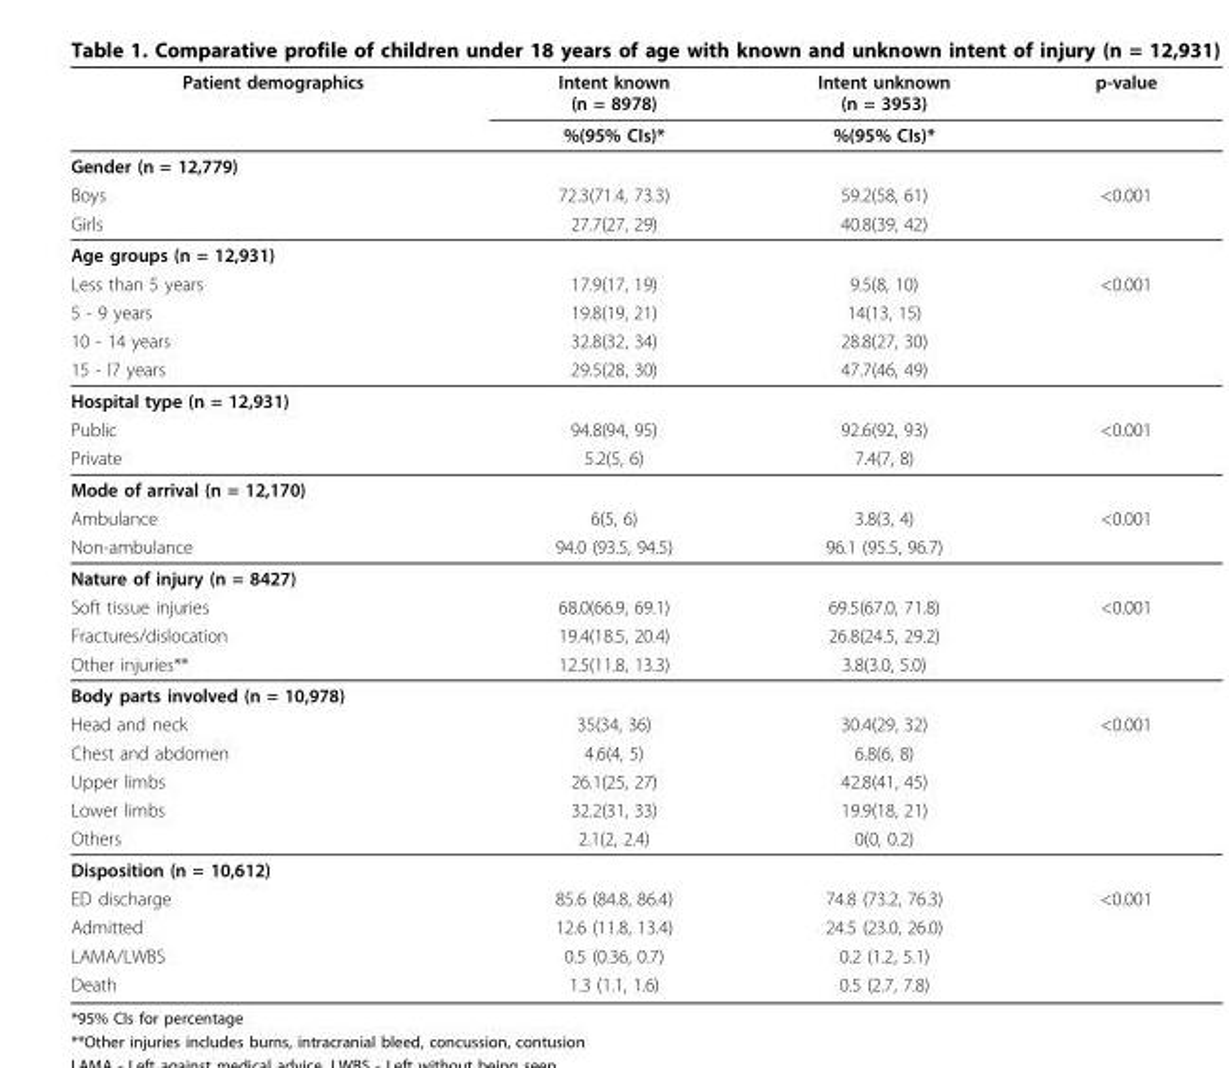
<table><thead><tr><td rowspan="2">Patient demographics</td><td rowspan="2">Intent known (n = 8978) %(95% CIs)*</td><td rowspan="2">Intent unknown (n = 3953) %(95% CIs)*</td><td rowspan="2">p-value</td></tr><tr></tr></thead><tbody><tr><td colspan="4">Gender (n = 12,779)</td></tr><tr><td>Boys</td><td>72.3(71.4, 73.3)</td><td>59.2(58, 61)</td><td>&lt;0.001</td></tr><tr><td>Girls</td><td>27.7(27, 29)</td><td>40.8(39, 42)</td><td></td></tr><tr><td colspan="4">Age groups (n = 12,931)</td></tr><tr><td>Less than 5 years</td><td>17.9(17, 19)</td><td>9.5(8, 10)</td><td>&lt;0.001</td></tr><tr><td>5 - 9 years</td><td>19.8(19, 21)</td><td>14(13, 15)</td><td></td></tr><tr><td>10 - 14 years</td><td>32.8(32, 34)</td><td>28.8(27, 30)</td><td></td></tr><tr><td>15 - l7 years</td><td>29.5(28, 30)</td><td>47.7(46, 49)</td><td></td></tr><tr><td colspan="4">Hospital type (n = 12,931)</td></tr><tr><td>Public</td><td>94.8(94, 95)</td><td>92.6(92, 93)</td><td>&lt;0.001</td></tr><tr><td>Private</td><td>5.2(5, 6)</td><td>7.4(7, 8)</td><td></td></tr><tr><td colspan="4">Mode of arrival (n = 12,170)</td></tr><tr><td>Ambulance</td><td>6(5, 6)</td><td>3.8(3, 4)</td><td>&lt;0.001</td></tr><tr><td>Non-ambulance</td><td>94.0 (93.5, 94.5)</td><td>96.1 (95.5, 96.7)</td><td></td></tr><tr><td colspan="4">Nature of injury (n = 8427)</td></tr><tr><td>Soft tissue injuries</td><td>68.0(66.9, 69.1)</td><td>69.5(67.0, 71.8)</td><td>&lt;0.001</td></tr><tr><td>Fractures/dislocation</td><td>19.4(18.5, 20.4)</td><td>26.8(24.5, 29.2)</td><td></td></tr><tr><td>Other injuries**</td><td>12.5(11.8, 13.3)</td><td>3.8(3.0, 5.0)</td><td></td></tr><tr><td colspan="4">Body parts involved (n = 10,978)</td></tr><tr><td>Head and neck</td><td>35(34, 36)</td><td>30.4(29, 32)</td><td>&lt;0.001</td></tr><tr><td>Chest and abdomen</td><td>4.6(4, 5)</td><td>6.8(6, 8)</td><td></td></tr><tr><td>Upper limbs</td><td>26.1(25, 27)</td><td>42.8(41, 45)</td><td></td></tr><tr><td>Lower limbs</td><td>32.2(31, 33)</td><td>19.9(18, 21)</td><td></td></tr><tr><td>Others</td><td>2.1(2, 2.4)</td><td>0(0, 0.2)</td><td></td></tr><tr><td colspan="4">Disposition (n = 10,612)</td></tr><tr><td>ED discharge</td><td>85.6 (84.8, 86.4)</td><td>74.8 (73.2, 76.3)</td><td>&lt;0.001</td></tr><tr><td>Admitted</td><td>12.6 (11.8, 13.4)</td><td>24.5 (23.0, 26.0)</td><td></td></tr><tr><td>LAMA/LWBS</td><td>0.5 (0.36, 0.7)</td><td>0.2 (1.2, 5.1)</td><td></td></tr><tr><td>Death</td><td>1.3 (1.1, 1.6)</td><td>0.5 (2.7, 7.8)</td><td></td></tr></tbody></table>